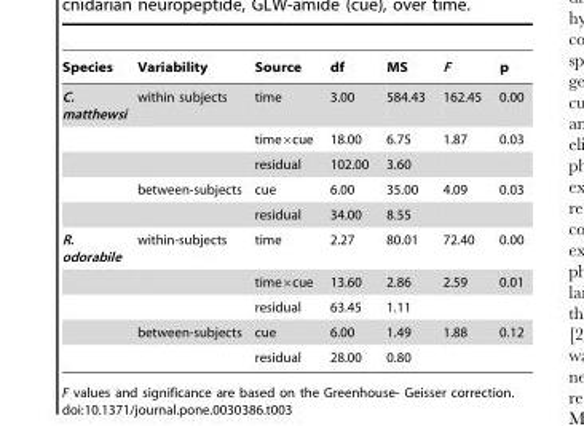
<table><thead><tr><td>Species</td><td>Variability</td><td>Source</td><td>df</td><td>MS</td><td>F</td><td>p</td></tr></thead><tbody><tr><td rowspan="5">C. matthewsi</td><td>within subjects</td><td>time</td><td>3.00</td><td>584.43</td><td>162.45</td><td>0.00</td></tr><tr><td></td><td>time×cue</td><td>18.00</td><td>6.75</td><td>1.87</td><td>0.03</td></tr><tr><td></td><td>residual</td><td>102.00</td><td>3.60</td><td></td><td></td></tr><tr><td>between-subjects</td><td>cue</td><td>6.00</td><td>35.00</td><td>4.09</td><td>0.03</td></tr><tr><td></td><td>residual</td><td>34.00</td><td>8.55</td><td></td><td></td></tr><tr><td rowspan="5">R. odorabile</td><td>within-subjects</td><td>time</td><td>2.27</td><td>80.01</td><td>72.40</td><td>0.00</td></tr><tr><td></td><td>time×cue</td><td>13.60</td><td>2.86</td><td>2.59</td><td>0.01</td></tr><tr><td></td><td>residual</td><td>63.45</td><td>1.11</td><td></td><td></td></tr><tr><td>between-subjects</td><td>cue</td><td>6.00</td><td>1.49</td><td>1.88</td><td>0.12</td></tr><tr><td></td><td>residual</td><td>28.00</td><td>0.80</td><td></td><td></td></tr></tbody></table>